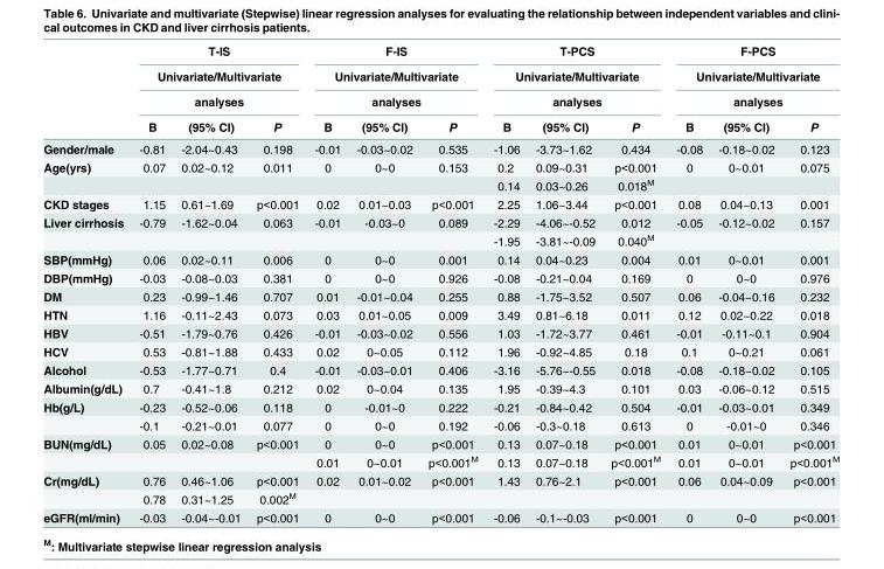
<table><thead><tr><td rowspan="4"></td><td rowspan="3" colspan="3">T-IS Univariate/Multivariate analyses</td><td rowspan="3" colspan="3">F-IS Univariate/Multivariate analyses</td><td rowspan="3" colspan="3">T-PCS Univariate/Multivariate analyses</td><td rowspan="3" colspan="3">F-PCS Univariate/Multivariate analyses</td></tr><tr></tr><tr></tr><tr><td>B</td><td>(95% CI)</td><td>P</td><td>B</td><td>(95% CI)</td><td>P</td><td>B</td><td>(95% CI)</td><td>P</td><td>B</td><td>(95% CI)</td><td>P</td></tr></thead><tbody><tr><td>Gender/male</td><td>-0.81</td><td>-2.04~0.43</td><td>0.198</td><td>-0.01</td><td>-0.03~0.02</td><td>0.535</td><td>-1.06</td><td>-3.73~1.62</td><td>0.434</td><td>-0.08</td><td>-0.18~0.02</td><td>0.123</td></tr><tr><td rowspan="2">Age(yrs)</td><td>0.07</td><td>0.02~0.12</td><td>0.011</td><td>0</td><td>0~0</td><td>0.153</td><td>0.2</td><td>0.09~0.31</td><td>p&lt;0.001</td><td>0</td><td>0~0.01</td><td>0.075</td></tr><tr><td></td><td></td><td></td><td></td><td></td><td></td><td>0.14</td><td>0.03~0.26</td><td>0.018<sup>M</sup></td><td></td><td></td><td></td></tr><tr><td>CKD stages</td><td>1.15</td><td>0.61~1.69</td><td>p&lt;0.001</td><td>0.02</td><td>0.01~0.03</td><td>p&lt;0.001</td><td>2.25</td><td>1.06~3.44</td><td>p&lt;0.001</td><td>0.08</td><td>0.04~0.13</td><td>0.001</td></tr><tr><td rowspan="2">Liver cirrhosis</td><td>-0.79</td><td>-1.62~0.04</td><td>0.063</td><td>-0.01</td><td>-0.03~0</td><td>0.089</td><td>-2.29</td><td>-4.06~-0.52</td><td>0.012</td><td>-0.05</td><td>-0.12~0.02</td><td>0.157</td></tr><tr><td></td><td></td><td></td><td></td><td></td><td></td><td>-1.95</td><td>-3.81~-0.09</td><td>0.040<sup>M</sup></td><td></td><td></td><td></td></tr><tr><td>SBP(mmHg)</td><td>0.06</td><td>0.02~0.11</td><td>0.006</td><td>0</td><td>0~0</td><td>0.001</td><td>0.14</td><td>0.04~0.23</td><td>0.004</td><td>0.01</td><td>0~0.01</td><td>0.001</td></tr><tr><td>DBP(mmHg)</td><td>-0.03</td><td>-0.08~0.03</td><td>0.381</td><td>0</td><td>0~0</td><td>0.926</td><td>-0.08</td><td>-0.21~0.04</td><td>0.169</td><td>0</td><td>0~0</td><td>0.976</td></tr><tr><td>DM</td><td>0.23</td><td>-0.99~1.46</td><td>0.707</td><td>0.01</td><td>-0.01~0.04</td><td>0.255</td><td>0.88</td><td>-1.75~3.52</td><td>0.507</td><td>0.06</td><td>-0.04~0.16</td><td>0.232</td></tr><tr><td>HTN</td><td>1.16</td><td>-0.11~2.43</td><td>0.073</td><td>0.03</td><td>0.01~0.05</td><td>0.009</td><td>3.49</td><td>0.81~6.18</td><td>0.011</td><td>0.12</td><td>0.02~0.22</td><td>0.018</td></tr><tr><td>HBV</td><td>-0.51</td><td>-1.79~0.76</td><td>0.426</td><td>-0.01</td><td>-0.03~0.02</td><td>0.556</td><td>1.03</td><td>-1.72~3.77</td><td>0.461</td><td>-0.01</td><td>-0.11~0.1</td><td>0.904</td></tr><tr><td>HCV</td><td>0.53</td><td>-0.81~1.88</td><td>0.433</td><td>0.02</td><td>0~0.05</td><td>0.112</td><td>1.96</td><td>-0.92~4.85</td><td>0.18</td><td>0.1</td><td>0~0.21</td><td>0.061</td></tr><tr><td>Alcohol</td><td>-0.53</td><td>-1.77~0.71</td><td>0.4</td><td>-0.01</td><td>-0.03~0.01</td><td>0.406</td><td>-3.16</td><td>-5.76~-0.55</td><td>0.018</td><td>-0.08</td><td>-0.18~0.02</td><td>0.105</td></tr><tr><td>Albumin(g/dL)</td><td>0.7</td><td>-0.41~1.8</td><td>0.212</td><td>0.02</td><td>0~0.04</td><td>0.135</td><td>1.95</td><td>-0.39~4.3</td><td>0.101</td><td>0.03</td><td>-0.06~0.12</td><td>0.515</td></tr><tr><td rowspan="2">Hb(g/L)</td><td>-0.23</td><td>-0.52~0.06</td><td>0.118</td><td>0</td><td>-0.01~0</td><td>0.222</td><td>-0.21</td><td>-0.84~0.42</td><td>0.504</td><td>-0.01</td><td>-0.03~0.01</td><td>0.349</td></tr><tr><td>-0.1</td><td>-0.21~0.01</td><td>0.077</td><td>0</td><td>0~0</td><td>0.192</td><td>-0.06</td><td>-0.3~0.18</td><td>0.613</td><td>0</td><td>-0.01~0</td><td>0.346</td></tr><tr><td rowspan="2">BUN(mg/dL)</td><td>0.05</td><td>0.02~0.08</td><td>p&lt;0.001</td><td>0</td><td>0~0</td><td>p&lt;0.001</td><td>0.13</td><td>0.07~0.18</td><td>p&lt;0.001</td><td>0.01</td><td>0~0.01</td><td>p&lt;0.001</td></tr><tr><td></td><td></td><td></td><td>0.01</td><td>0~0.01</td><td>p&lt;0.001<sup>M</sup></td><td>0.13</td><td>0.07~0.18</td><td>p&lt;0.001<sup>M</sup></td><td>0.01</td><td>0~0.01</td><td>p&lt;0.001<sup>M</sup></td></tr><tr><td rowspan="2">Cr(mg/dL)</td><td>0.76</td><td>0.46~1.06</td><td>p&lt;0.001</td><td>0.02</td><td>0.01~0.02</td><td>p&lt;0.001</td><td>1.43</td><td>0.76~2.1</td><td>p&lt;0.001</td><td>0.06</td><td>0.04~0.09</td><td>p&lt;0.001</td></tr><tr><td>0.78</td><td>0.31~1.25</td><td>0.002<sup>M</sup></td><td></td><td></td><td></td><td></td><td></td><td></td><td></td><td></td><td></td></tr><tr><td>eGFR(ml/min)</td><td>-0.03</td><td>-0.04~-0.01</td><td>p&lt;0.001</td><td>0</td><td>0~0</td><td>p&lt;0.001</td><td>-0.06</td><td>-0.1~-0.03</td><td>p&lt;0.001</td><td>0</td><td>0~0</td><td>p&lt;0.001</td></tr></tbody></table>